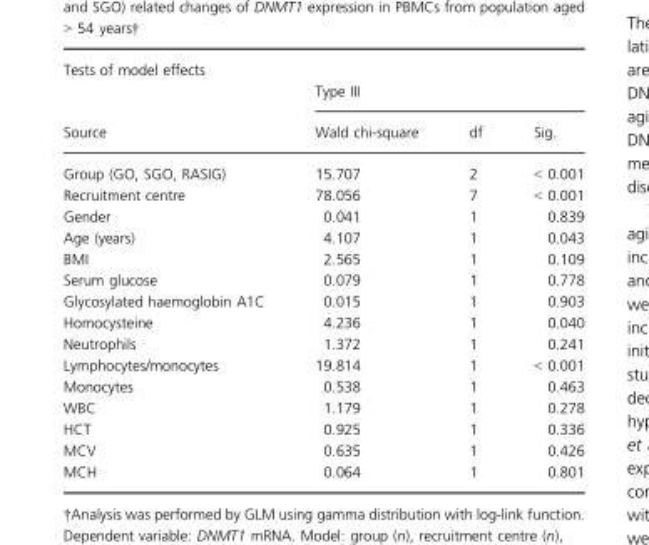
<table><thead><tr><td colspan="4">Tests of model effects</td></tr><tr><td rowspan="2">Source</td><td colspan="3">Type III</td></tr><tr><td>Wald chi-square</td><td>df</td><td>Sig.</td></tr></thead><tbody><tr><td>Group (GO, SGO, RASIG)</td><td>15.707</td><td>2</td><td>&lt; 0.001</td></tr><tr><td>Recruitment centre</td><td>78.056</td><td>7</td><td>&lt; 0.001</td></tr><tr><td>Gender</td><td>0.041</td><td>1</td><td>0.839</td></tr><tr><td>Age (years)</td><td>4.107</td><td>1</td><td>0.043</td></tr><tr><td>BMI</td><td>2.565</td><td>1</td><td>0.109</td></tr><tr><td>Serum glucose</td><td>0.079</td><td>1</td><td>0.778</td></tr><tr><td>Glycosylated haemoglobin A1C</td><td>0.015</td><td>1</td><td>0.903</td></tr><tr><td>Homocysteine</td><td>4.236</td><td>1</td><td>0.040</td></tr><tr><td>Neutrophils</td><td>1.372</td><td>1</td><td>0.241</td></tr><tr><td>Lymphocytes/monocytes</td><td>19.814</td><td>1</td><td>&lt; 0.001</td></tr><tr><td>Monocytes</td><td>0.538</td><td>1</td><td>0.463</td></tr><tr><td>WBC</td><td>1.179</td><td>1</td><td>0.278</td></tr><tr><td>HCT</td><td>0.925</td><td>1</td><td>0.336</td></tr><tr><td>MCV</td><td>0.635</td><td>1</td><td>0.426</td></tr><tr><td>MCH</td><td>0.064</td><td>1</td><td>0.801</td></tr></tbody></table>